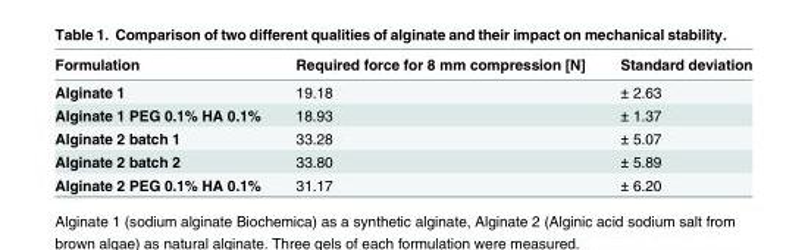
<table><thead><tr><td>Formulation</td><td>Required force for 8 mm compression [N]</td><td>Standard deviation</td></tr></thead><tbody><tr><td>Alginate 1</td><td>19.18</td><td>± 2.63</td></tr><tr><td>Alginate 1 PEG 0.1% HA 0.1%</td><td>18.93</td><td>± 1.37</td></tr><tr><td>Alginate 2 batch 1</td><td>33.28</td><td>± 5.07</td></tr><tr><td>Alginate 2 batch 2</td><td>33.80</td><td>± 5.89</td></tr><tr><td>Alginate 2 PEG 0.1% HA 0.1%</td><td>31.17</td><td>± 6.20</td></tr></tbody></table>